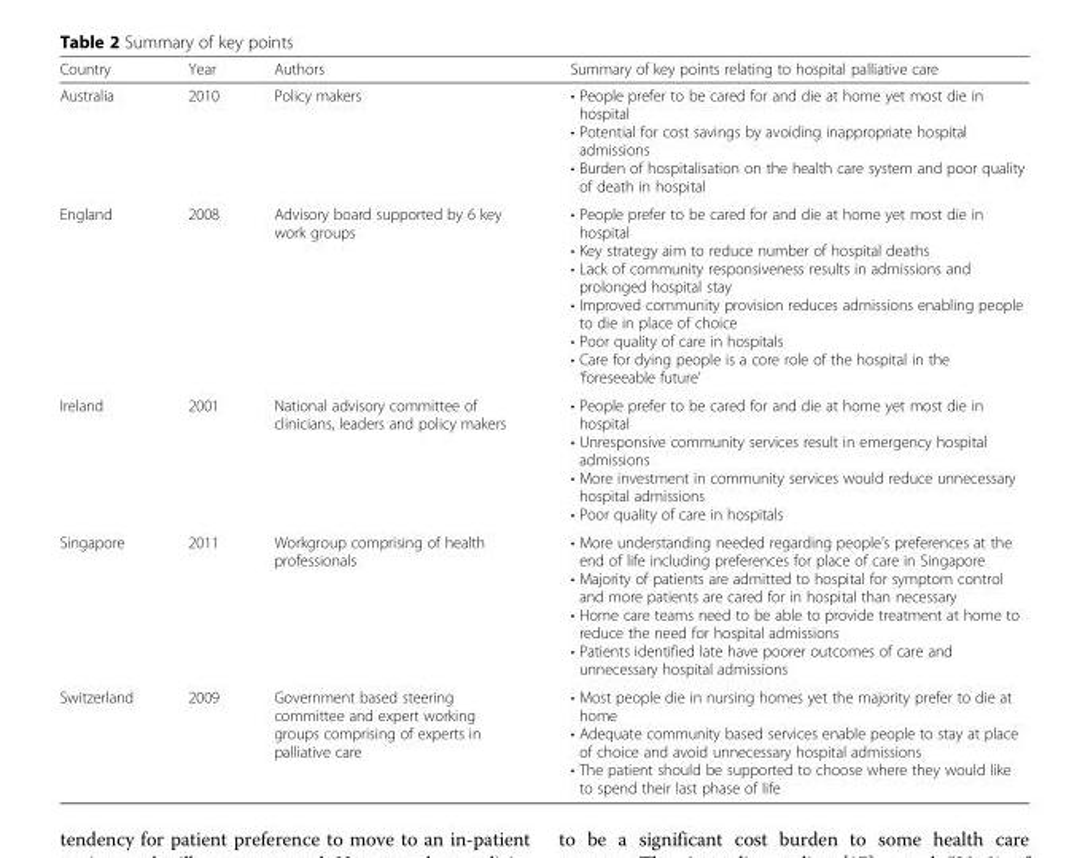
<table><thead><tr><td>Country</td><td>Year</td><td>Authors</td><td>Summary of key points relating to hospital palliative care</td></tr></thead><tbody><tr><td>Australia</td><td>2010</td><td>Policy makers</td><td>• People prefer to be cared for and die at home yet most die in hospital • Potential for cost savings by avoiding inappropriate hospital admissions • Burden of hospitalisation on the health care system and poor quality of death in hospital</td></tr><tr><td>England</td><td>2008</td><td>Advisory board supported by 6 key work groups</td><td>• People prefer to be cared for and die at home yet most die in hospital • Key strategy aim to reduce number of hospital deaths • Lack of community responsiveness results in admissions and prolonged hospital stay • Improved community provision reduces admissions enabling people to die in place of choice • Poor quality of care in hospitals • Care for dying people is a core role of the hospital in the ‘foreseeable future’</td></tr><tr><td>Ireland</td><td>2001</td><td>National advisory committee of clinicians, leaders and policy makers</td><td>• People prefer to be cared for and die at home yet most die in hospital • Unresponsive community services result in emergency hospital admissions • More investment in community services would reduce unnecessary hospital admissions • Poor quality of care in hospitals</td></tr><tr><td>Singapore</td><td>2011</td><td>Workgroup comprising of health professionals</td><td>• More understanding needed regarding people’s preferences at the end of life including preferences for place of care in Singapore • Majority of patients are admitted to hospital for symptom control and more patients are cared for in hospital than necessary • Home care teams need to be able to provide treatment at home to reduce the need for hospital admissions • Patients identified late have poorer outcomes of care and unnecessary hospital admissions</td></tr><tr><td>Switzerland</td><td>2009</td><td>Government based steering committee and expert working groups comprising of experts in palliative care</td><td>• Most people die in nursing homes yet the majority prefer to die at home • Adequate community based services enable people to stay at place of choice and avoid unnecessary hospital admissions • The patient should be supported to choose where they would like to spend their last phase of life</td></tr></tbody></table>